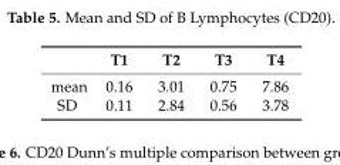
<table><thead><tr><td></td><td>T1</td><td>T2</td><td>T3</td><td>T4</td></tr></thead><tbody><tr><td>mean</td><td>0.16</td><td>3.01</td><td>0.75</td><td>7.86</td></tr><tr><td>SD</td><td>0.11</td><td>2.84</td><td>0.56</td><td>3.78</td></tr></tbody></table>